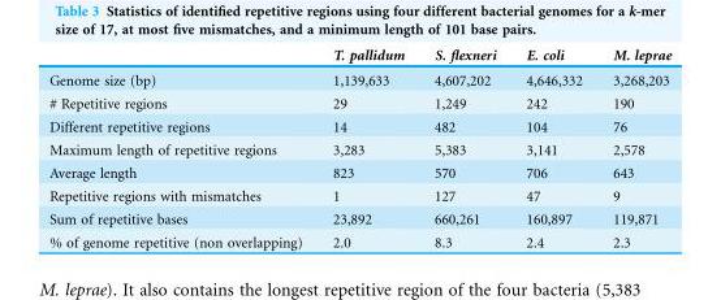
<table><thead><tr><td></td><td>T. pallidum</td><td>S. flexneri</td><td>E. coli</td><td>M. leprae</td></tr></thead><tbody><tr><td>Genome size (bp)</td><td>1,139,633</td><td>4,607,202</td><td>4,646,332</td><td>3,268,203</td></tr><tr><td># Repetitive regions</td><td>29</td><td>1,249</td><td>242</td><td>190</td></tr><tr><td>Different repetitive regions</td><td>14</td><td>482</td><td>104</td><td>76</td></tr><tr><td>Maximum length of repetitive regions</td><td>3,283</td><td>5,383</td><td>3,141</td><td>2,578</td></tr><tr><td>Average length</td><td>823</td><td>570</td><td>706</td><td>643</td></tr><tr><td>Repetitive regions with mismatches</td><td>1</td><td>127</td><td>47</td><td>9</td></tr><tr><td>Sum of repetitive bases</td><td>23,892</td><td>660,261</td><td>160,897</td><td>119,871</td></tr><tr><td>% of genome repetitive (non overlapping)</td><td>2.0</td><td>8.3</td><td>2.4</td><td>2.3</td></tr></tbody></table>